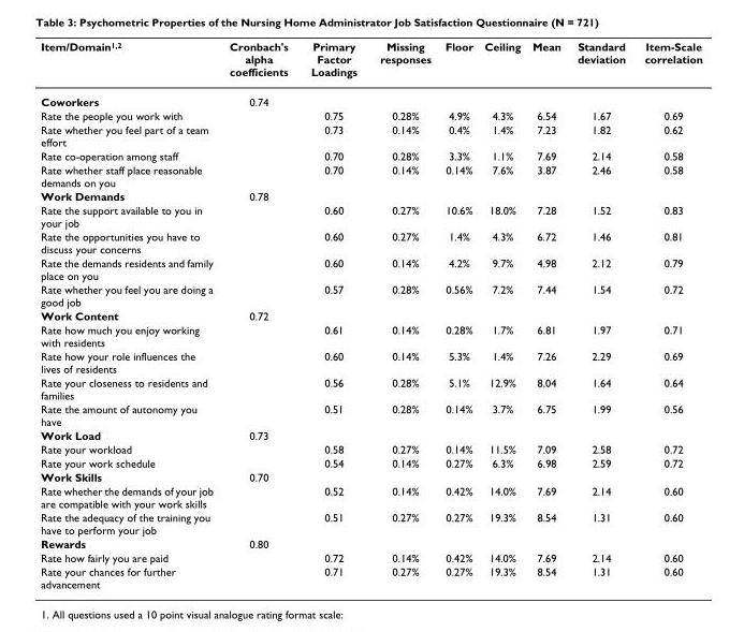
<table><thead><tr><td>Item/Domain<sup>1,2</sup></td><td>Cronbach&#x27;s alpha coefficients</td><td>Primary Factor Loadings</td><td>Missing responses</td><td>Floor</td><td>Ceiling</td><td>Mean</td><td>Standard deviation</td><td>Item-Scale correlation</td></tr></thead><tbody><tr><td>Coworkers</td><td>0.74</td><td></td><td></td><td></td><td></td><td></td><td></td><td></td></tr><tr><td>Rate the people you work with</td><td></td><td>0.75</td><td>0.28%</td><td>4.9%</td><td>4.3%</td><td>6.54</td><td>1.67</td><td>0.69</td></tr><tr><td>Rate whether you feel part of a team effort</td><td></td><td>0.73</td><td>0.14%</td><td>0.4%</td><td>1.4%</td><td>7.23</td><td>1.82</td><td>0.62</td></tr><tr><td>Rate co-operation among staff</td><td></td><td>0.70</td><td>0.28%</td><td>3.3%</td><td>1.1%</td><td>7.69</td><td>2.14</td><td>0.58</td></tr><tr><td>Rate whether staff place reasonable demands on you</td><td></td><td>0.70</td><td>0.14%</td><td>0.14%</td><td>7.6%</td><td>3.87</td><td>2.46</td><td>0.58</td></tr><tr><td>Work Demands</td><td>0.78</td><td></td><td></td><td></td><td></td><td></td><td></td><td></td></tr><tr><td>Rate the support available to you in your job</td><td></td><td>0.60</td><td>0.27%</td><td>10.6%</td><td>18.0%</td><td>7.28</td><td>1.52</td><td>0.83</td></tr><tr><td>Rate the opportunities you have to discuss your concerns</td><td></td><td>0.60</td><td>0.27%</td><td>1.4%</td><td>4.3%</td><td>6.72</td><td>1.46</td><td>0.81</td></tr><tr><td>Rate the demands residents and family place on you</td><td></td><td>0.60</td><td>0.14%</td><td>4.2%</td><td>9.7%</td><td>4.98</td><td>2.12</td><td>0.79</td></tr><tr><td>Rate whether you feel you are doing a good job</td><td></td><td>0.57</td><td>0.28%</td><td>0.56%</td><td>7.2%</td><td>7.44</td><td>1.54</td><td>0.72</td></tr><tr><td>Work Content</td><td>0.72</td><td></td><td></td><td></td><td></td><td></td><td></td><td></td></tr><tr><td>Rate how much you enjoy working with residents</td><td></td><td>0.61</td><td>0.14%</td><td>0.28%</td><td>1.7%</td><td>6.81</td><td>1.97</td><td>0.71</td></tr><tr><td>Rate how your role influences the lives of residents</td><td></td><td>0.60</td><td>0.14%</td><td>5.3%</td><td>1.4%</td><td>7.26</td><td>2.29</td><td>0.69</td></tr><tr><td>Rate your closeness to residents and families</td><td></td><td>0.56</td><td>0.28%</td><td>5.1%</td><td>12.9%</td><td>8.04</td><td>1.64</td><td>0.64</td></tr><tr><td>Rate the amount of autonomy you have</td><td></td><td>0.51</td><td>0.28%</td><td>0.14%</td><td>3.7%</td><td>6.75</td><td>1.99</td><td>0.56</td></tr><tr><td>Work Load</td><td>0.73</td><td></td><td></td><td></td><td></td><td></td><td></td><td></td></tr><tr><td>Rate your workload</td><td></td><td>0.58</td><td>0.27%</td><td>0.14%</td><td>11.5%</td><td>7.09</td><td>2.58</td><td>0.72</td></tr><tr><td>Rate your work schedule</td><td></td><td>0.54</td><td>0.14%</td><td>0.27%</td><td>6.3%</td><td>6.98</td><td>2.59</td><td>0.72</td></tr><tr><td>Work Skills</td><td>0.70</td><td></td><td></td><td></td><td></td><td></td><td></td><td></td></tr><tr><td>Rate whether the demands of your job are compatible with your work skills</td><td></td><td>0.52</td><td>0.14%</td><td>0.42%</td><td>14.0%</td><td>7.69</td><td>2.14</td><td>0.60</td></tr><tr><td>Rate the adequacy of the training you have to perform your job</td><td></td><td>0.51</td><td>0.27%</td><td>0.27%</td><td>19.3%</td><td>8.54</td><td>1.31</td><td>0.60</td></tr><tr><td>Rewards</td><td>0.80</td><td></td><td></td><td></td><td></td><td></td><td></td><td></td></tr><tr><td>Rate how fairly you are paid</td><td></td><td>0.72</td><td>0.14%</td><td>0.42%</td><td>14.0%</td><td>7.69</td><td>2.14</td><td>0.60</td></tr><tr><td>Rate your chances for further advancement</td><td></td><td>0.71</td><td>0.27%</td><td>0.27%</td><td>19.3%</td><td>8.54</td><td>1.31</td><td>0.60</td></tr></tbody></table>